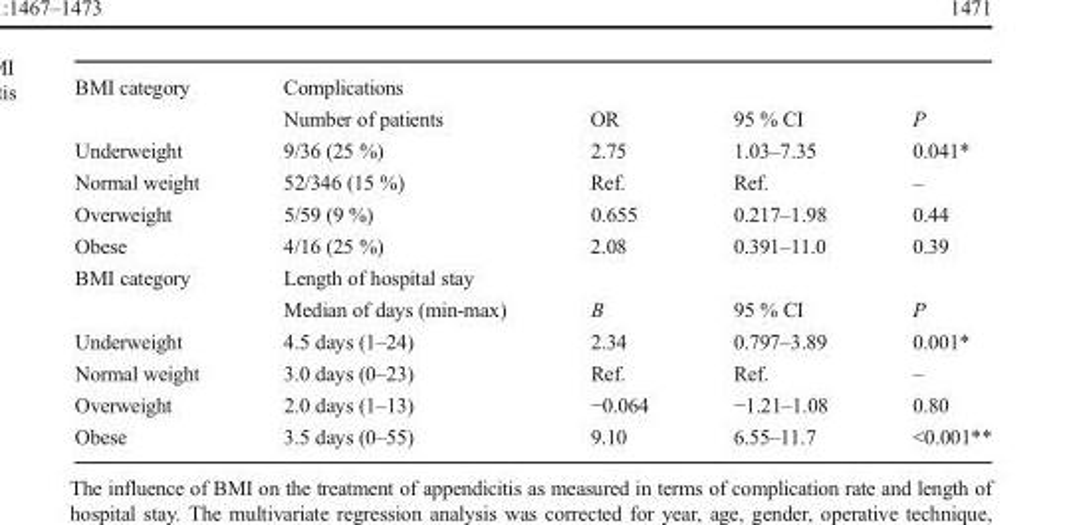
<table><tbody><tr><td rowspan="2">BMI category</td><td colspan="4">Complications</td></tr><tr><td>Number of patients</td><td>OR</td><td>95 % CI</td><td>P</td></tr><tr><td>Underweight</td><td>9/36 (25 %)</td><td>2.75</td><td>1.03–7.35</td><td>0.041*</td></tr><tr><td>Normal weight</td><td>52/346 (15 %)</td><td>Ref.</td><td>Ref.</td><td>–</td></tr><tr><td>Overweight</td><td>5/59 (9 %)</td><td>0.655</td><td>0.217–1.98</td><td>0.44</td></tr><tr><td>Obese</td><td>4/16 (25 %)</td><td>2.08</td><td>0.391–11.0</td><td>0.39</td></tr><tr><td rowspan="2">BMI category</td><td colspan="4">Length of hospital stay</td></tr><tr><td>Median of days (min-max)</td><td>B</td><td>95 % CI</td><td>P</td></tr><tr><td>Underweight</td><td>4.5 days (1–24)</td><td>2.34</td><td>0.797–3.89</td><td>0.001*</td></tr><tr><td>Normal weight</td><td>3.0 days (0–23)</td><td>Ref.</td><td>Ref.</td><td>–</td></tr><tr><td>Overweight</td><td>2.0 days (1–13)</td><td>−0.064</td><td>−1.21–1.08</td><td>0.80</td></tr><tr><td>Obese</td><td>3.5 days (0–55)</td><td>9.10</td><td>6.55–11.7</td><td>&lt;0.001**</td></tr></tbody></table>